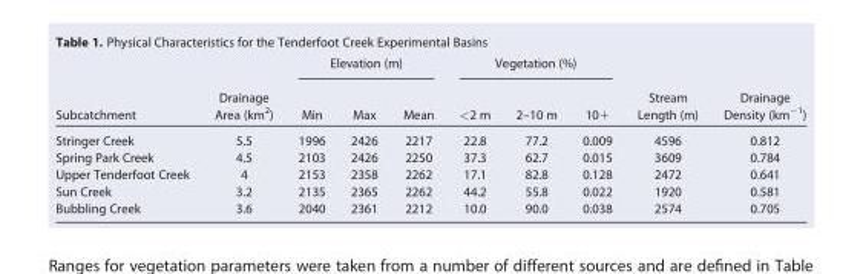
<table><thead><tr><td rowspan="2">Subcatchment</td><td rowspan="2">Drainage Area (km<sup>2</sup>)</td><td colspan="3">Elevation (m)</td><td colspan="3">Vegetation (%)</td><td rowspan="2">Stream Length (m)</td><td rowspan="2">Drainage Density (km<sup>−1</sup>)</td></tr><tr><td>Min</td><td>Max</td><td>Mean</td><td>&lt;2 m</td><td>2–10 m</td><td>10+</td></tr></thead><tbody><tr><td>Stringer Creek</td><td>5.5</td><td>1996</td><td>2426</td><td>2217</td><td>22.8</td><td>77.2</td><td>0.009</td><td>4596</td><td>0.812</td></tr><tr><td>Spring Park Creek</td><td>4.5</td><td>2103</td><td>2426</td><td>2250</td><td>37.3</td><td>62.7</td><td>0.015</td><td>3609</td><td>0.784</td></tr><tr><td>Upper Tenderfoot Creek</td><td>4</td><td>2153</td><td>2358</td><td>2262</td><td>17.1</td><td>82.8</td><td>0.128</td><td>2472</td><td>0.641</td></tr><tr><td>Sun Creek</td><td>3.2</td><td>2135</td><td>2365</td><td>2262</td><td>44.2</td><td>55.8</td><td>0.022</td><td>1920</td><td>0.581</td></tr><tr><td>Bubbling Creek</td><td>3.6</td><td>2040</td><td>2361</td><td>2212</td><td>10.0</td><td>90.0</td><td>0.038</td><td>2574</td><td>0.705</td></tr></tbody></table>